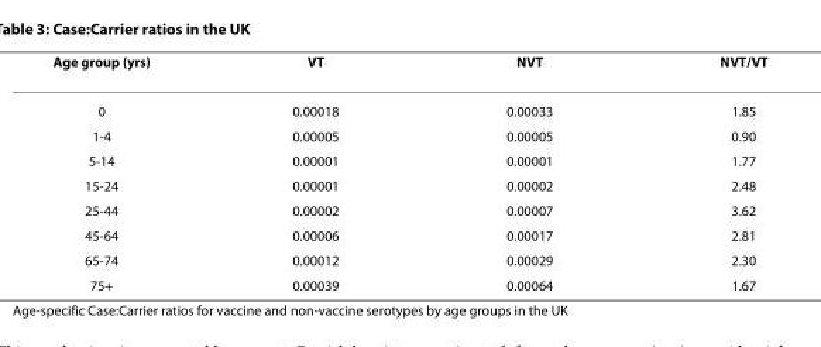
<table><thead><tr><td>Age group (yrs)</td><td>VT</td><td>NVT</td><td>NVT/VT</td></tr></thead><tbody><tr><td>0</td><td>0.00018</td><td>0.00033</td><td>1.85</td></tr><tr><td>1-4</td><td>0.00005</td><td>0.00005</td><td>0.90</td></tr><tr><td>5-14</td><td>0.00001</td><td>0.00001</td><td>1.77</td></tr><tr><td>15-24</td><td>0.00001</td><td>0.00002</td><td>2.48</td></tr><tr><td>25-44</td><td>0.00002</td><td>0.00007</td><td>3.62</td></tr><tr><td>45-64</td><td>0.00006</td><td>0.00017</td><td>2.81</td></tr><tr><td>65-74</td><td>0.00012</td><td>0.00029</td><td>2.30</td></tr><tr><td>75+</td><td>0.00039</td><td>0.00064</td><td>1.67</td></tr></tbody></table>